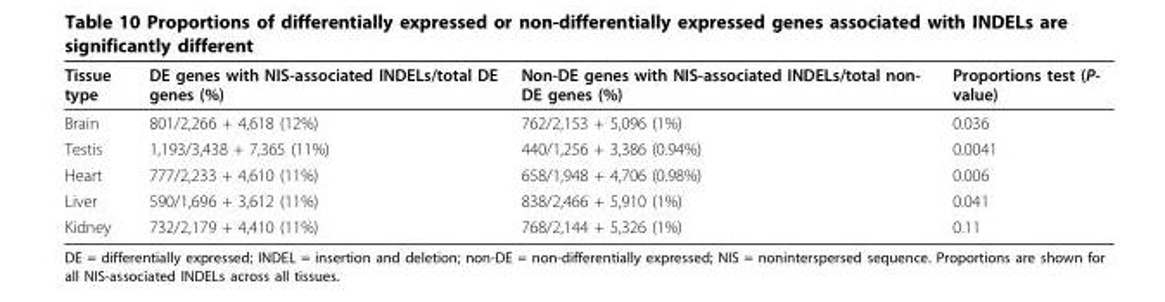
<table><thead><tr><td>Tissue type</td><td>DE genes with NIS-associated INDELs/total DE genes (%)</td><td>Non-DE genes with NIS-associated INDELs/total non- DE genes (%)</td><td>Proportions test (P- value)</td></tr></thead><tbody><tr><td>Brain</td><td>801/2,266 + 4,618 (12%)</td><td>762/2,153 + 5,096 (1%)</td><td>0.036</td></tr><tr><td>Testis</td><td>1,193/3,438 + 7,365 (11%)</td><td>440/1,256 + 3,386 (0.94%)</td><td>0.0041</td></tr><tr><td>Heart</td><td>777/2,233 + 4,610 (11%)</td><td>658/1,948 + 4,706 (0.98%)</td><td>0.006</td></tr><tr><td>Liver</td><td>590/1,696 + 3,612 (11%)</td><td>838/2,466 + 5,910 (1%)</td><td>0.041</td></tr><tr><td>Kidney</td><td>732/2,179 + 4,410 (11%)</td><td>768/2,144 + 5,326 (1%)</td><td>0.11</td></tr></tbody></table>